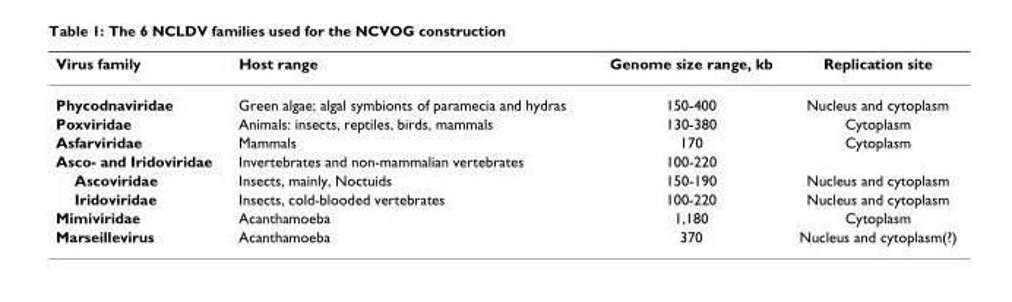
<table><thead><tr><td>Virus family</td><td>Host range</td><td>Genome size range, kb</td><td>Replication site</td></tr></thead><tbody><tr><td>Phycodnaviridae</td><td>Green algae; algal symbionts of paramecia and hydras</td><td>150-400</td><td>Nucleus and cytoplasm</td></tr><tr><td>Poxviridae</td><td>Animals: insects, reptiles, birds, mammals</td><td>130-380</td><td>Cytoplasm</td></tr><tr><td>Asfarviridae</td><td>Mammals</td><td>170</td><td>Cytoplasm</td></tr><tr><td>Asco- and Iridoviridae</td><td>Invertebrates and non-mammalian vertebrates</td><td>100-220</td><td></td></tr><tr><td>Ascoviridae</td><td>Insects, mainly, Noctuids</td><td>150-190</td><td>Nucleus and cytoplasm</td></tr><tr><td>Iridoviridae</td><td>Insects, cold-blooded vertebrates</td><td>100-220</td><td>Nucleus and cytoplasm</td></tr><tr><td>Mimiviridae</td><td>Acanthamoeba</td><td>1,180</td><td>Cytoplasm</td></tr><tr><td>Marseillevirus</td><td>Acanthamoeba</td><td>370</td><td>Nucleus and cytoplasm(?)</td></tr></tbody></table>